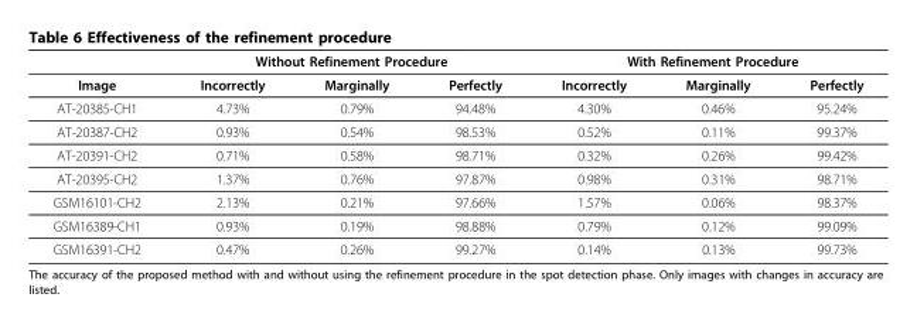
<table><thead><tr><td rowspan="2">Image</td><td colspan="3">Without Refinement Procedure</td><td colspan="3">With Refinement Procedure</td></tr><tr><td>Incorrectly</td><td>Marginally</td><td>Perfectly</td><td>Incorrectly</td><td>Marginally</td><td>Perfectly</td></tr></thead><tbody><tr><td>AT-20385-CH1</td><td>4.73%</td><td>0.79%</td><td>94.48%</td><td>4.30%</td><td>0.46%</td><td>95.24%</td></tr><tr><td>AT-20387-CH2</td><td>0.93%</td><td>0.54%</td><td>98.53%</td><td>0.52%</td><td>0.11%</td><td>99.37%</td></tr><tr><td>AT-20391-CH2</td><td>0.71%</td><td>0.58%</td><td>98.71%</td><td>0.32%</td><td>0.26%</td><td>99.42%</td></tr><tr><td>AT-20395-CH2</td><td>1.37%</td><td>0.76%</td><td>97.87%</td><td>0.98%</td><td>0.31%</td><td>98.71%</td></tr><tr><td>GSM16101-CH2</td><td>2.13%</td><td>0.21%</td><td>97.66%</td><td>1.57%</td><td>0.06%</td><td>98.37%</td></tr><tr><td>GSM16389-CH1</td><td>0.93%</td><td>0.19%</td><td>98.88%</td><td>0.79%</td><td>0.12%</td><td>99.09%</td></tr><tr><td>GSM16391-CH2</td><td>0.47%</td><td>0.26%</td><td>99.27%</td><td>0.14%</td><td>0.13%</td><td>99.73%</td></tr></tbody></table>